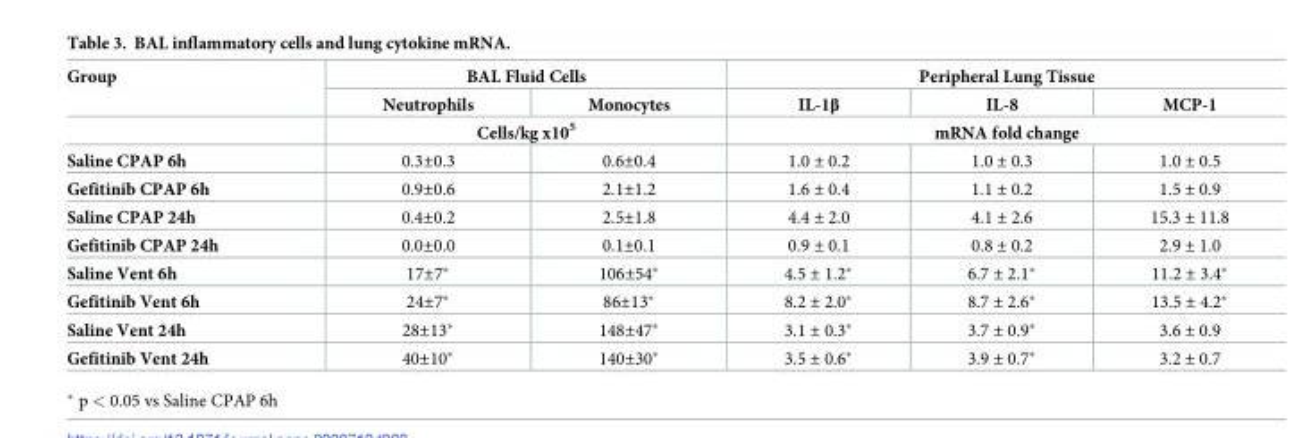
<table><thead><tr><td rowspan="3">Group</td><td colspan="2">BAL Fluid Cells</td><td colspan="3">Peripheral Lung Tissue</td></tr><tr><td>Neutrophils</td><td>Monocytes</td><td>IL-1β</td><td>IL-8</td><td>MCP-1</td></tr><tr><td colspan="2">Cells/kg x10<sup>5</sup></td><td colspan="3">mRNA fold change</td></tr></thead><tbody><tr><td>Saline CPAP 6h</td><td>0.3±0.3</td><td>0.6±0.4</td><td>1.0 ± 0.2</td><td>1.0 ± 0.3</td><td>1.0 ± 0.5</td></tr><tr><td>Gefitinib CPAP 6h</td><td>0.9±0.6</td><td>2.1±1.2</td><td>1.6 ± 0.4</td><td>1.1 ± 0.2</td><td>1.5 ± 0.9</td></tr><tr><td>Saline CPAP 24h</td><td>0.4±0.2</td><td>2.5±1.8</td><td>4.4 ± 2.0</td><td>4.1 ± 2.6</td><td>15.3 ± 11.8</td></tr><tr><td>Gefitinib CPAP 24h</td><td>0.0±0.0</td><td>0.1±0.1</td><td>0.9 ± 0.1</td><td>0.8 ± 0.2</td><td>2.9 ± 1.0</td></tr><tr><td>Saline Vent 6h</td><td>17±7*</td><td>106±54*</td><td>4.5 ± 1.2*</td><td>6.7 ± 2.1*</td><td>11.2 ± 3.4*</td></tr><tr><td>Gefitinib Vent 6h</td><td>24±7*</td><td>86±13*</td><td>8.2 ± 2.0*</td><td>8.7 ± 2.6*</td><td>13.5 ± 4.2*</td></tr><tr><td>Saline Vent 24h</td><td>28±13*</td><td>148±47*</td><td>3.1 ± 0.3*</td><td>3.7 ± 0.9*</td><td>3.6 ± 0.9</td></tr><tr><td>Gefitinib Vent 24h</td><td>40±10*</td><td>140±30*</td><td>3.5 ± 0.6*</td><td>3.9 ± 0.7*</td><td>3.2 ± 0.7</td></tr></tbody></table>